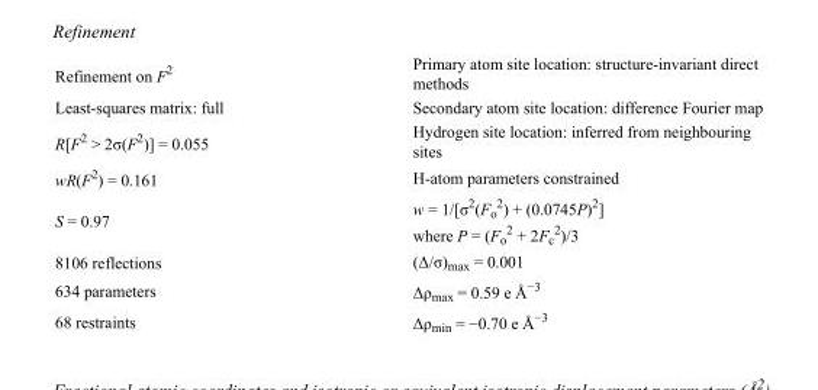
<table><tbody><tr><td>Refinement on F<sup>2</sup></td><td>Primary atom site location: structure-invariant direct methods</td></tr><tr><td>Least-squares matrix: full</td><td>Secondary atom site location: difference Fourier map</td></tr><tr><td>R[F<sup>2</sup> &gt; 2σ(F<sup>2</sup>)] = 0.055</td><td>Hydrogen site location: inferred from neighbouring sites</td></tr><tr><td>wR(F<sup>2</sup>) = 0.161</td><td>H-atom parameters constrained</td></tr><tr><td>S = 0.97</td><td>w = 1/[σ<sup>2</sup>(F<sub>o</sub> <sup>2</sup>) + (0.0745P)<sup>2</sup>] where P = (F<sub>o</sub> <sup>2</sup> + 2F<sub>c</sub> <sup>2</sup>)/3</td></tr><tr><td>8106 reflections</td><td>(Δ/σ)<sub>max</sub> = 0.001</td></tr><tr><td>634 parameters</td><td>Δρ<sub>max</sub> = 0.59 e Å<sup>−3</sup></td></tr><tr><td>68 restraints</td><td>Δρ<sub>min</sub> = −0.70 e Å<sup>−3</sup></td></tr></tbody></table>